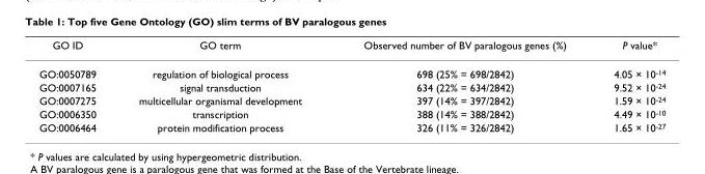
<table><thead><tr><td>GO ID</td><td>GO term</td><td>Observed number of BV paralogous genes (%)</td><td>P value*</td></tr></thead><tbody><tr><td>GO:0050789</td><td>regulation of biological process</td><td>698 (25% = 698/2842)</td><td>4.05 × 10<sup>-14</sup></td></tr><tr><td>GO:0007165</td><td>signal transduction</td><td>634 (22% = 634/2842)</td><td>9.52 × 10<sup>-24</sup></td></tr><tr><td>GO:0007275</td><td>multicellular organismal development</td><td>397 (14% = 397/2842)</td><td>1.59 × 10<sup>-24</sup></td></tr><tr><td>GO:0006350</td><td>transcription</td><td>388 (14% = 388/2842)</td><td>4.49 × 10<sup>-10</sup></td></tr><tr><td>GO:0006464</td><td>protein modification process</td><td>326 (11% = 326/2842)</td><td>1.65 × 10<sup>-27</sup></td></tr></tbody></table>